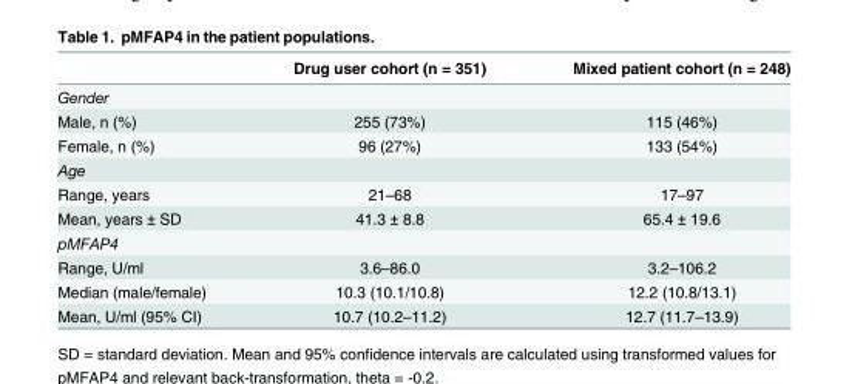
<table><thead><tr><td></td><td>Drug user cohort (n = 351)</td><td>Mixed patient cohort (n = 248)</td></tr></thead><tbody><tr><td colspan="3">Gender</td></tr><tr><td>Male, n (%)</td><td>255 (73%)</td><td>115 (46%)</td></tr><tr><td>Female, n (%)</td><td>96 (27%)</td><td>133 (54%)</td></tr><tr><td colspan="3">Age</td></tr><tr><td>Range, years</td><td>21–68</td><td>17–97</td></tr><tr><td>Mean, years ± SD</td><td>41.3 ± 8.8</td><td>65.4 ± 19.6</td></tr><tr><td colspan="3">pMFAP4</td></tr><tr><td>Range, U/ml</td><td>3.6–86.0</td><td>3.2–106.2</td></tr><tr><td>Median (male/female)</td><td>10.3 (10.1/10.8)</td><td>12.2 (10.8/13.1)</td></tr><tr><td>Mean, U/ml (95% CI)</td><td>10.7 (10.2–11.2)</td><td>12.7 (11.7–13.9)</td></tr></tbody></table>